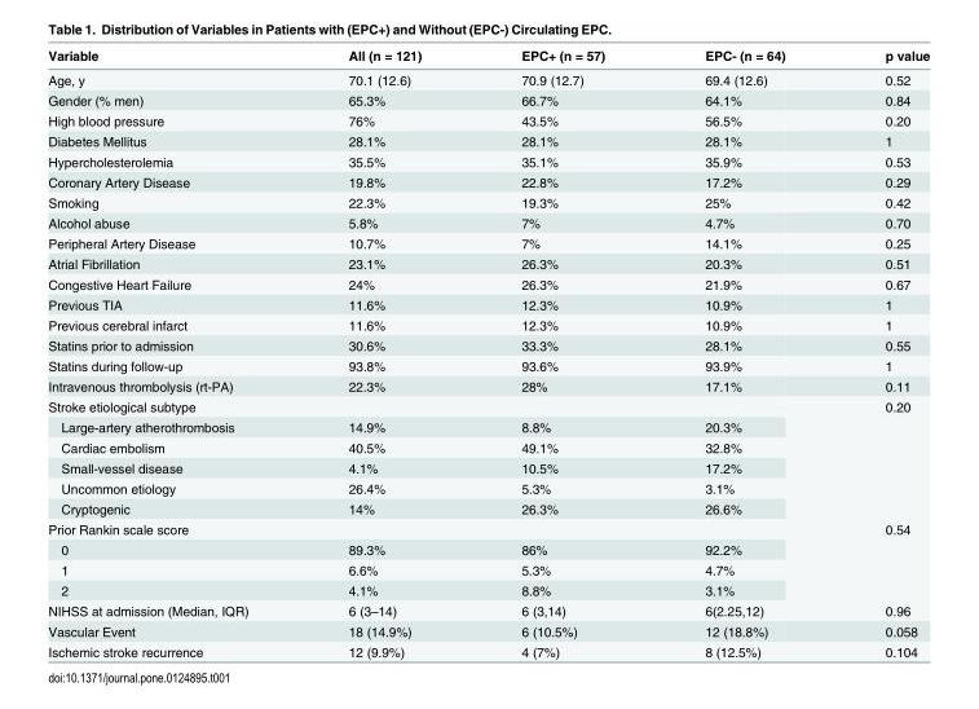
<table><thead><tr><td>Variable</td><td>All (n = 121)</td><td>EPC+ (n = 57)</td><td>EPC- (n = 64)</td><td>p value</td></tr></thead><tbody><tr><td>Age, y</td><td>70.1 (12.6)</td><td>70.9 (12.7)</td><td>69.4 (12.6)</td><td>0.52</td></tr><tr><td>Gender (% men)</td><td>65.3%</td><td>66.7%</td><td>64.1%</td><td>0.84</td></tr><tr><td>High blood pressure</td><td>76%</td><td>43.5%</td><td>56.5%</td><td>0.20</td></tr><tr><td>Diabetes Mellitus</td><td>28.1%</td><td>28.1%</td><td>28.1%</td><td>1</td></tr><tr><td>Hypercholesterolemia</td><td>35.5%</td><td>35.1%</td><td>35.9%</td><td>0.53</td></tr><tr><td>Coronary Artery Disease</td><td>19.8%</td><td>22.8%</td><td>17.2%</td><td>0.29</td></tr><tr><td>Smoking</td><td>22.3%</td><td>19.3%</td><td>25%</td><td>0.42</td></tr><tr><td>Alcohol abuse</td><td>5.8%</td><td>7%</td><td>4.7%</td><td>0.70</td></tr><tr><td>Peripheral Artery Disease</td><td>10.7%</td><td>7%</td><td>14.1%</td><td>0.25</td></tr><tr><td>Atrial Fibrillation</td><td>23.1%</td><td>26.3%</td><td>20.3%</td><td>0.51</td></tr><tr><td>Congestive Heart Failure</td><td>24%</td><td>26.3%</td><td>21.9%</td><td>0.67</td></tr><tr><td>Previous TIA</td><td>11.6%</td><td>12.3%</td><td>10.9%</td><td>1</td></tr><tr><td>Previous cerebral infarct</td><td>11.6%</td><td>12.3%</td><td>10.9%</td><td>1</td></tr><tr><td>Statins prior to admission</td><td>30.6%</td><td>33.3%</td><td>28.1%</td><td>0.55</td></tr><tr><td>Statins during follow-up</td><td>93.8%</td><td>93.6%</td><td>93.9%</td><td>1</td></tr><tr><td>Intravenous thrombolysis (rt-PA)</td><td>22.3%</td><td>28%</td><td>17.1%</td><td>0.11</td></tr><tr><td colspan="4">Stroke etiological subtype</td><td rowspan="6">0.20</td></tr><tr><td>Large-artery atherothrombosis</td><td>14.9%</td><td>8.8%</td><td>20.3%</td></tr><tr><td>Cardiac embolism</td><td>40.5%</td><td>49.1%</td><td>32.8%</td></tr><tr><td>Small-vessel disease</td><td>4.1%</td><td>10.5%</td><td>17.2%</td></tr><tr><td>Uncommon etiology</td><td>26.4%</td><td>5.3%</td><td>3.1%</td></tr><tr><td>Cryptogenic</td><td>14%</td><td>26.3%</td><td>26.6%</td></tr><tr><td colspan="4">Prior Rankin scale score</td><td rowspan="4">0.54</td></tr><tr><td>0</td><td>89.3%</td><td>86%</td><td>92.2%</td></tr><tr><td>1</td><td>6.6%</td><td>5.3%</td><td>4.7%</td></tr><tr><td>2</td><td>4.1%</td><td>8.8%</td><td>3.1%</td></tr><tr><td>NIHSS at admission (Median, IQR)</td><td>6 (3–14)</td><td>6 (3,14)</td><td>6(2.25,12)</td><td>0.96</td></tr><tr><td>Vascular Event</td><td>18 (14.9%)</td><td>6 (10.5%)</td><td>12 (18.8%)</td><td>0.058</td></tr><tr><td>Ischemic stroke recurrence</td><td>12 (9.9%)</td><td>4 (7%)</td><td>8 (12.5%)</td><td>0.104</td></tr></tbody></table>